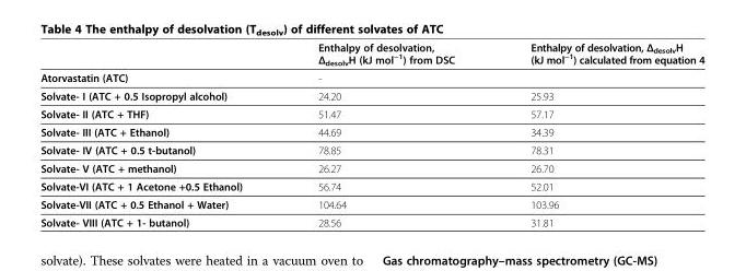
<table><thead><tr><td></td><td>Enthalpy of desolvation, Δ<sub>desolv</sub>H (kJ mol<sup>−1</sup>) from DSC</td><td>Enthalpy of desolvation, Δ<sub>desolv</sub>H (kJ mol<sup>−1</sup>) calculated from equation 4</td></tr></thead><tbody><tr><td>Atorvastatin (ATC)</td><td>-</td><td></td></tr><tr><td>Solvate- I (ATC + 0.5 Isopropyl alcohol)</td><td>24.20</td><td>25.93</td></tr><tr><td>Solvate- II (ATC + THF)</td><td>51.47</td><td>57.17</td></tr><tr><td>Solvate- III (ATC + Ethanol)</td><td>44.69</td><td>34.39</td></tr><tr><td>Solvate- IV (ATC + 0.5 t-butanol)</td><td>78.85</td><td>78.31</td></tr><tr><td>Solvate- V (ATC + methanol)</td><td>26.27</td><td>26.70</td></tr><tr><td>Solvate-VI (ATC + 1 Acetone +0.5 Ethanol)</td><td>56.74</td><td>52.01</td></tr><tr><td>Solvate-VII (ATC + 0.5 Ethanol + Water)</td><td>104.64</td><td>103.96</td></tr><tr><td>Solvate- VIII (ATC + 1- butanol)</td><td>28.56</td><td>31.81</td></tr></tbody></table>